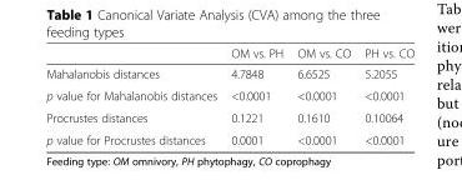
<table><thead><tr><td></td><td>OM vs. PH</td><td>OM vs. CO</td><td>PH vs. CO</td></tr></thead><tbody><tr><td>Mahalanobis distances</td><td>4.7848</td><td>6.6525</td><td>5.2055</td></tr><tr><td>p value for Mahalanobis distances</td><td>&lt;0.0001</td><td>&lt;0.0001</td><td>&lt;0.0001</td></tr><tr><td>Procrustes distances</td><td>0.1221</td><td>0.1610</td><td>0.10064</td></tr><tr><td>p value for Procrustes distances</td><td>0.0001</td><td>&lt;0.0001</td><td>&lt;0.0001</td></tr></tbody></table>